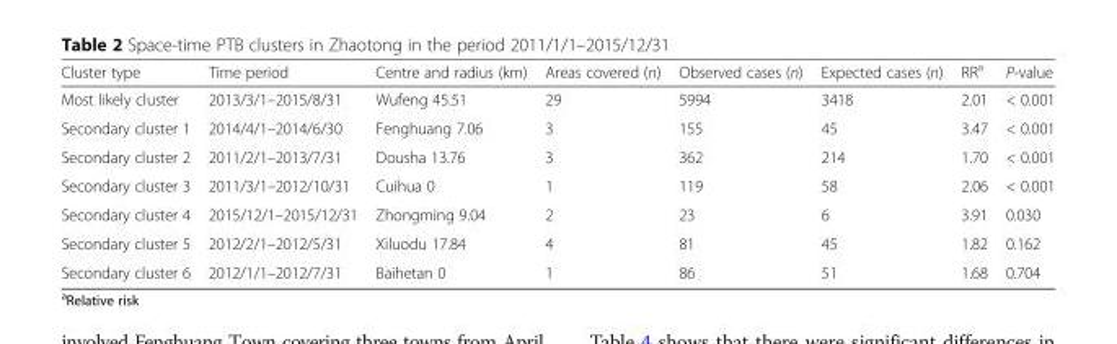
<table><thead><tr><td>Cluster type</td><td>Time period</td><td>Centre and radius (km)</td><td>Areas covered (n)</td><td>Observed cases (n)</td><td>Expected cases (n)</td><td>RR<sup>a</sup></td><td>P-value</td></tr></thead><tbody><tr><td>Most likely cluster</td><td>2013/3/1–2015/8/31</td><td>Wufeng 45.51</td><td>29</td><td>5994</td><td>3418</td><td>2.01</td><td>&lt; 0.001</td></tr><tr><td>Secondary cluster 1</td><td>2014/4/1–2014/6/30</td><td>Fenghuang 7.06</td><td>3</td><td>155</td><td>45</td><td>3.47</td><td>&lt; 0.001</td></tr><tr><td>Secondary cluster 2</td><td>2011/2/1–2013/7/31</td><td>Dousha 13.76</td><td>3</td><td>362</td><td>214</td><td>1.70</td><td>&lt; 0.001</td></tr><tr><td>Secondary cluster 3</td><td>2011/3/1–2012/10/31</td><td>Cuihua 0</td><td>1</td><td>119</td><td>58</td><td>2.06</td><td>&lt; 0.001</td></tr><tr><td>Secondary cluster 4</td><td>2015/12/1–2015/12/31</td><td>Zhongming 9.04</td><td>2</td><td>23</td><td>6</td><td>3.91</td><td>0.030</td></tr><tr><td>Secondary cluster 5</td><td>2012/2/1–2012/5/31</td><td>Xiluodu 17.84</td><td>4</td><td>81</td><td>45</td><td>1.82</td><td>0.162</td></tr><tr><td>Secondary cluster 6</td><td>2012/1/1–2012/7/31</td><td>Baihetan 0</td><td>1</td><td>86</td><td>51</td><td>1.68</td><td>0.704</td></tr></tbody></table>